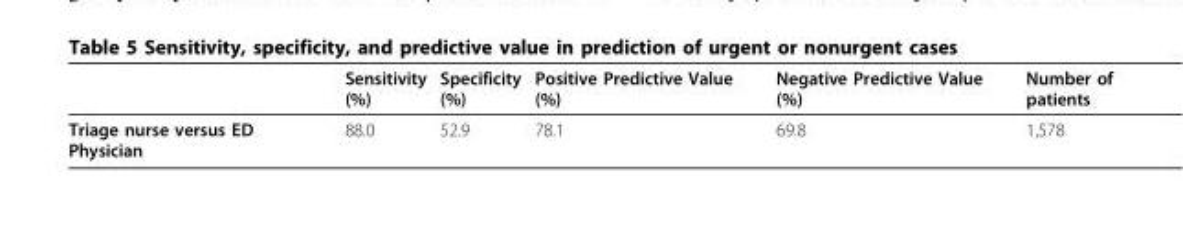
<table><thead><tr><td></td><td>Sensitivity (%)</td><td>Specificity (%)</td><td>Positive Predictive Value (%)</td><td>Negative Predictive Value (%)</td><td>Number of patients</td></tr></thead><tbody><tr><td>Triage nurse versus ED Physician</td><td>88.0</td><td>52.9</td><td>78.1</td><td>69.8</td><td>1,578</td></tr></tbody></table>